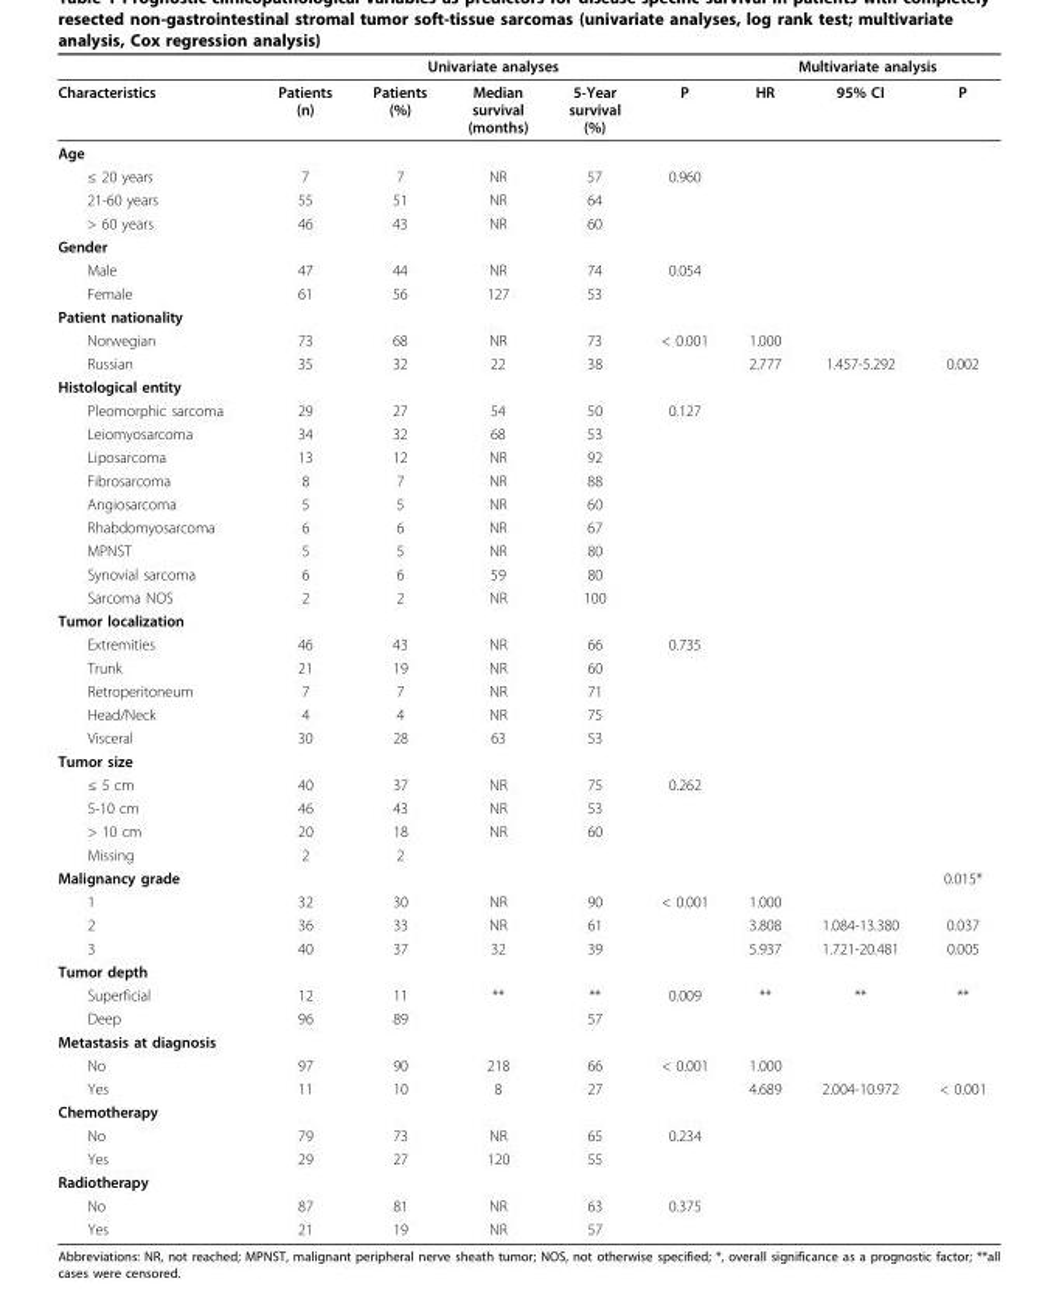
<table><thead><tr><td rowspan="2">Characteristics</td><td colspan="5">Univariate analyses</td><td colspan="3">Multivariate analysis</td></tr><tr><td>Patients (n)</td><td>Patients (%)</td><td>Median survival (months)</td><td>5-Year survival (%)</td><td>P</td><td>HR</td><td>95% CI</td><td>P</td></tr></thead><tbody><tr><td colspan="9">Age</td></tr><tr><td>≤ 20 years</td><td>7</td><td>7</td><td>NR</td><td>57</td><td>0.960</td><td></td><td></td><td></td></tr><tr><td>21-60 years</td><td>55</td><td>51</td><td>NR</td><td>64</td><td></td><td></td><td></td><td></td></tr><tr><td>&gt; 60 years</td><td>46</td><td>43</td><td>NR</td><td>60</td><td></td><td></td><td></td><td></td></tr><tr><td colspan="9">Gender</td></tr><tr><td>Male</td><td>47</td><td>44</td><td>NR</td><td>74</td><td>0.054</td><td></td><td></td><td></td></tr><tr><td>Female</td><td>61</td><td>56</td><td>127</td><td>53</td><td></td><td></td><td></td><td></td></tr><tr><td colspan="9">Patient nationality</td></tr><tr><td>Norwegian</td><td>73</td><td>68</td><td>NR</td><td>73</td><td>&lt; 0.001</td><td>1.000</td><td></td><td></td></tr><tr><td>Russian</td><td>35</td><td>32</td><td>22</td><td>38</td><td></td><td>2.777</td><td>1.457-5.292</td><td>0.002</td></tr><tr><td colspan="9">Histological entity</td></tr><tr><td>Pleomorphic sarcoma</td><td>29</td><td>27</td><td>54</td><td>50</td><td>0.127</td><td></td><td></td><td></td></tr><tr><td>Leiomyosarcoma</td><td>34</td><td>32</td><td>68</td><td>53</td><td></td><td></td><td></td><td></td></tr><tr><td>Liposarcoma</td><td>13</td><td>12</td><td>NR</td><td>92</td><td></td><td></td><td></td><td></td></tr><tr><td>Fibrosarcoma</td><td>8</td><td>7</td><td>NR</td><td>88</td><td></td><td></td><td></td><td></td></tr><tr><td>Angiosarcoma</td><td>5</td><td>5</td><td>NR</td><td>60</td><td></td><td></td><td></td><td></td></tr><tr><td>Rhabdomyosarcoma</td><td>6</td><td>6</td><td>NR</td><td>67</td><td></td><td></td><td></td><td></td></tr><tr><td>MPNST</td><td>5</td><td>5</td><td>NR</td><td>80</td><td></td><td></td><td></td><td></td></tr><tr><td>Synovial sarcoma</td><td>6</td><td>6</td><td>59</td><td>80</td><td></td><td></td><td></td><td></td></tr><tr><td>Sarcoma NOS</td><td>2</td><td>2</td><td>NR</td><td>100</td><td></td><td></td><td></td><td></td></tr><tr><td colspan="9">Tumor localization</td></tr><tr><td>Extremities</td><td>46</td><td>43</td><td>NR</td><td>66</td><td>0.735</td><td></td><td></td><td></td></tr><tr><td>Trunk</td><td>21</td><td>19</td><td>NR</td><td>60</td><td></td><td></td><td></td><td></td></tr><tr><td>Retroperitoneum</td><td>7</td><td>7</td><td>NR</td><td>71</td><td></td><td></td><td></td><td></td></tr><tr><td>Head/Neck</td><td>4</td><td>4</td><td>NR</td><td>75</td><td></td><td></td><td></td><td></td></tr><tr><td>Visceral</td><td>30</td><td>28</td><td>63</td><td>53</td><td></td><td></td><td></td><td></td></tr><tr><td colspan="9">Tumor size</td></tr><tr><td>≤ 5 cm</td><td>40</td><td>37</td><td>NR</td><td>75</td><td>0.262</td><td></td><td></td><td></td></tr><tr><td>5-10 cm</td><td>46</td><td>43</td><td>NR</td><td>53</td><td></td><td></td><td></td><td></td></tr><tr><td>&gt; 10 cm</td><td>20</td><td>18</td><td>NR</td><td>60</td><td></td><td></td><td></td><td></td></tr><tr><td>Missing</td><td>2</td><td>2</td><td></td><td></td><td></td><td></td><td></td><td></td></tr><tr><td>Malignancy grade</td><td></td><td></td><td></td><td></td><td></td><td></td><td></td><td>0.015*</td></tr><tr><td>1</td><td>32</td><td>30</td><td>NR</td><td>90</td><td>&lt; 0.001</td><td>1.000</td><td></td><td></td></tr><tr><td>2</td><td>36</td><td>33</td><td>NR</td><td>61</td><td></td><td>3.808</td><td>1.084-13.380</td><td>0.037</td></tr><tr><td>3</td><td>40</td><td>37</td><td>32</td><td>39</td><td></td><td>5.937</td><td>1.721-20.481</td><td>0.005</td></tr><tr><td colspan="9">Tumor depth</td></tr><tr><td>Superficial</td><td>12</td><td>11</td><td>**</td><td>**</td><td>0.009</td><td>**</td><td>**</td><td>**</td></tr><tr><td>Deep</td><td>96</td><td>89</td><td></td><td>57</td><td></td><td></td><td></td><td></td></tr><tr><td colspan="9">Metastasis at diagnosis</td></tr><tr><td>No</td><td>97</td><td>90</td><td>218</td><td>66</td><td>&lt; 0.001</td><td>1.000</td><td></td><td></td></tr><tr><td>Yes</td><td>11</td><td>10</td><td>8</td><td>27</td><td></td><td>4.689</td><td>2.004-10.972</td><td>&lt; 0.001</td></tr><tr><td colspan="9">Chemotherapy</td></tr><tr><td>No</td><td>79</td><td>73</td><td>NR</td><td>65</td><td>0.234</td><td></td><td></td><td></td></tr><tr><td>Yes</td><td>29</td><td>27</td><td>120</td><td>55</td><td></td><td></td><td></td><td></td></tr><tr><td colspan="9">Radiotherapy</td></tr><tr><td>No</td><td>87</td><td>81</td><td>NR</td><td>63</td><td>0.375</td><td></td><td></td><td></td></tr><tr><td>Yes</td><td>21</td><td>19</td><td>NR</td><td>57</td><td></td><td></td><td></td><td></td></tr></tbody></table>